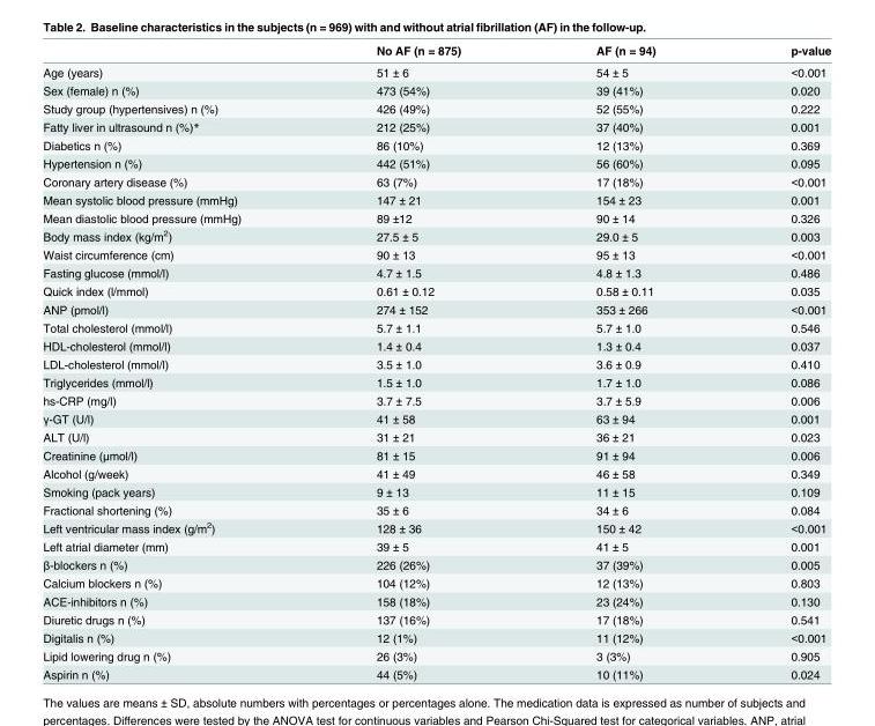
<table><thead><tr><td></td><td>No AF (n = 875)</td><td>AF (n = 94)</td><td>p-value</td></tr></thead><tbody><tr><td>Age (years)</td><td>51 ± 6</td><td>54 ± 5</td><td>&lt;0.001</td></tr><tr><td>Sex (female) n (%)</td><td>473 (54%)</td><td>39 (41%)</td><td>0.020</td></tr><tr><td>Study group (hypertensives) n (%)</td><td>426 (49%)</td><td>52 (55%)</td><td>0.222</td></tr><tr><td>Fatty liver in ultrasound n (%)*</td><td>212 (25%)</td><td>37 (40%)</td><td>0.001</td></tr><tr><td>Diabetics n (%)</td><td>86 (10%)</td><td>12 (13%)</td><td>0.369</td></tr><tr><td>Hypertension n (%)</td><td>442 (51%)</td><td>56 (60%)</td><td>0.095</td></tr><tr><td>Coronary artery disease (%)</td><td>63 (7%)</td><td>17 (18%)</td><td>&lt;0.001</td></tr><tr><td>Mean systolic blood pressure (mmHg)</td><td>147 ± 21</td><td>154 ± 23</td><td>0.001</td></tr><tr><td>Mean diastolic blood pressure (mmHg)</td><td>89 ±12</td><td>90 ± 14</td><td>0.326</td></tr><tr><td>Body mass index (kg/m<sup>2</sup>)</td><td>27.5 ± 5</td><td>29.0 ± 5</td><td>0.003</td></tr><tr><td>Waist circumference (cm)</td><td>90 ± 13</td><td>95 ± 13</td><td>&lt;0.001</td></tr><tr><td>Fasting glucose (mmol/l)</td><td>4.7 ± 1.5</td><td>4.8 ± 1.3</td><td>0.486</td></tr><tr><td>Quick index (l/mmol)</td><td>0.61 ± 0.12</td><td>0.58 ± 0.11</td><td>0.035</td></tr><tr><td>ANP (pmol/l)</td><td>274 ± 152</td><td>353 ± 266</td><td>&lt;0.001</td></tr><tr><td>Total cholesterol (mmol/l)</td><td>5.7 ± 1.1</td><td>5.7 ± 1.0</td><td>0.546</td></tr><tr><td>HDL-cholesterol (mmol/l)</td><td>1.4 ± 0.4</td><td>1.3 ± 0.4</td><td>0.037</td></tr><tr><td>LDL-cholesterol (mmol/l)</td><td>3.5 ± 1.0</td><td>3.6 ± 0.9</td><td>0.410</td></tr><tr><td>Triglycerides (mmol/l)</td><td>1.5 ± 1.0</td><td>1.7 ± 1.0</td><td>0.086</td></tr><tr><td>hs-CRP (mg/l)</td><td>3.7 ± 7.5</td><td>3.7 ± 5.9</td><td>0.006</td></tr><tr><td>γ-GT (U/l)</td><td>41 ± 58</td><td>63 ± 94</td><td>0.001</td></tr><tr><td>ALT (U/l)</td><td>31 ± 21</td><td>36 ± 21</td><td>0.023</td></tr><tr><td>Creatinine (μmol/l)</td><td>81 ± 15</td><td>91 ± 94</td><td>0.006</td></tr><tr><td>Alcohol (g/week)</td><td>41 ± 49</td><td>46 ± 58</td><td>0.349</td></tr><tr><td>Smoking (pack years)</td><td>9 ± 13</td><td>11 ± 15</td><td>0.109</td></tr><tr><td>Fractional shortening (%)</td><td>35 ± 6</td><td>34 ± 6</td><td>0.084</td></tr><tr><td>Left ventricular mass index (g/m<sup>2</sup>)</td><td>128 ± 36</td><td>150 ± 42</td><td>&lt;0.001</td></tr><tr><td>Left atrial diameter (mm)</td><td>39 ± 5</td><td>41 ± 5</td><td>0.001</td></tr><tr><td>β-blockers n (%)</td><td>226 (26%)</td><td>37 (39%)</td><td>0.005</td></tr><tr><td>Calcium blockers n (%)</td><td>104 (12%)</td><td>12 (13%)</td><td>0.803</td></tr><tr><td>ACE-inhibitors n (%)</td><td>158 (18%)</td><td>23 (24%)</td><td>0.130</td></tr><tr><td>Diuretic drugs n (%)</td><td>137 (16%)</td><td>17 (18%)</td><td>0.541</td></tr><tr><td>Digitalis n (%)</td><td>12 (1%)</td><td>11 (12%)</td><td>&lt;0.001</td></tr><tr><td>Lipid lowering drug n (%)</td><td>26 (3%)</td><td>3 (3%)</td><td>0.905</td></tr><tr><td>Aspirin n (%)</td><td>44 (5%)</td><td>10 (11%)</td><td>0.024</td></tr></tbody></table>